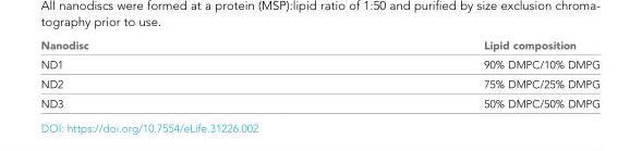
<table><thead><tr><td>Nanodisc</td><td>Lipid composition</td></tr></thead><tbody><tr><td>ND1</td><td>90% DMPC/10% DMPG</td></tr><tr><td>ND2</td><td>75% DMPC/25% DMPG</td></tr><tr><td>ND3</td><td>50% DMPC/50% DMPG</td></tr></tbody></table>